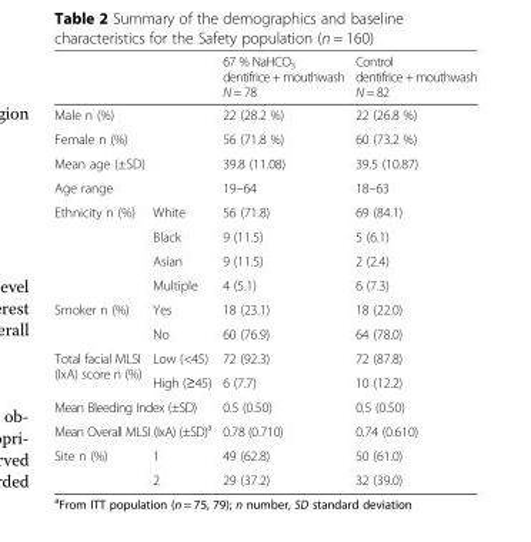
<table><thead><tr><td></td><td></td><td>67 % NaHCO<sub>3</sub> dentifrice + mouthwash N = 78</td><td>Control dentifrice + mouthwash N = 82</td></tr></thead><tbody><tr><td colspan="2">Male n (%)</td><td>22 (28.2 %)</td><td>22 (26.8 %)</td></tr><tr><td colspan="2">Female n (%)</td><td>56 (71.8 %)</td><td>60 (73.2 %)</td></tr><tr><td colspan="2">Mean age (±SD)</td><td>39.8 (11.08)</td><td>39.5 (10.87)</td></tr><tr><td colspan="2">Age range</td><td>19–64</td><td>18–63</td></tr><tr><td rowspan="4">Ethnicity n (%)</td><td>White</td><td>56 (71.8)</td><td>69 (84.1)</td></tr><tr><td>Black</td><td>9 (11.5)</td><td>5 (6.1)</td></tr><tr><td>Asian</td><td>9 (11.5)</td><td>2 (2.4)</td></tr><tr><td>Multiple</td><td>4 (5.1)</td><td>6 (7.3)</td></tr><tr><td rowspan="2">Smoker n (%)</td><td>Yes</td><td>18 (23.1)</td><td>18 (22.0)</td></tr><tr><td>No</td><td>60 (76.9)</td><td>64 (78.0)</td></tr><tr><td rowspan="2">Total facial MLSI (IxA) score n (%)</td><td>Low (&lt;45)</td><td>72 (92.3)</td><td>72 (87.8)</td></tr><tr><td>High (≥45)</td><td>6 (7.7)</td><td>10 (12.2)</td></tr><tr><td colspan="2">Mean Bleeding Index (±SD)</td><td>0.5 (0.50)</td><td>0.5 (0.50)</td></tr><tr><td colspan="2">Mean Overall MLSI (IxA) (±SD)<sup>a</sup></td><td>0.78 (0.710)</td><td>0.74 (0.610)</td></tr><tr><td rowspan="2">Site n (%)</td><td>1</td><td>49 (62.8)</td><td>50 (61.0)</td></tr><tr><td>2</td><td>29 (37.2)</td><td>32 (39.0)</td></tr></tbody></table>